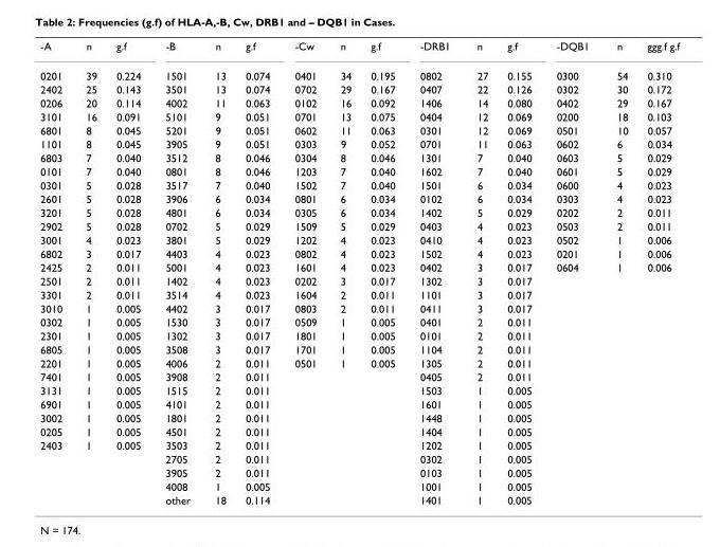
<table><tbody><tr><td>-A</td><td>n</td><td>g.f</td><td>-B</td><td>n</td><td>g.f</td><td>-Cw</td><td>n</td><td>g.f</td><td>-DRB1</td><td>n</td><td>g.f</td><td>-DQB1</td><td>n</td><td>ggg.f g.f</td></tr><tr><td>0201</td><td>39</td><td>0.224</td><td>1501</td><td>13</td><td>0.074</td><td>0401</td><td>34</td><td>0.195</td><td>0802</td><td>27</td><td>0.155</td><td>0300</td><td>54</td><td>0.310</td></tr><tr><td>2402</td><td>25</td><td>0.143</td><td>3501</td><td>13</td><td>0.074</td><td>0702</td><td>29</td><td>0.167</td><td>0407</td><td>22</td><td>0.126</td><td>0302</td><td>30</td><td>0.172</td></tr><tr><td>0206</td><td>20</td><td>0.114</td><td>4002</td><td>11</td><td>0.063</td><td>0102</td><td>16</td><td>0.092</td><td>1406</td><td>14</td><td>0.080</td><td>0402</td><td>29</td><td>0.167</td></tr><tr><td>3101</td><td>16</td><td>0.091</td><td>5101</td><td>9</td><td>0.051</td><td>0701</td><td>13</td><td>0.075</td><td>0404</td><td>12</td><td>0.069</td><td>0200</td><td>18</td><td>0.103</td></tr><tr><td>6801</td><td>8</td><td>0.045</td><td>5201</td><td>9</td><td>0.051</td><td>0602</td><td>11</td><td>0.063</td><td>0301</td><td>12</td><td>0.069</td><td>0501</td><td>10</td><td>0.057</td></tr><tr><td>1101</td><td>8</td><td>0.045</td><td>3905</td><td>9</td><td>0.051</td><td>0303</td><td>9</td><td>0.052</td><td>0701</td><td>11</td><td>0.063</td><td>0602</td><td>6</td><td>0.034</td></tr><tr><td>6803</td><td>7</td><td>0.040</td><td>3512</td><td>8</td><td>0.046</td><td>0304</td><td>8</td><td>0.046</td><td>1301</td><td>7</td><td>0.040</td><td>0603</td><td>5</td><td>0.029</td></tr><tr><td>0101</td><td>7</td><td>0.040</td><td>0801</td><td>8</td><td>0.046</td><td>1203</td><td>7</td><td>0.040</td><td>1602</td><td>7</td><td>0.040</td><td>0601</td><td>5</td><td>0.029</td></tr><tr><td>0301</td><td>5</td><td>0.028</td><td>3517</td><td>7</td><td>0.040</td><td>1502</td><td>7</td><td>0.040</td><td>1501</td><td>6</td><td>0.034</td><td>0600</td><td>4</td><td>0.023</td></tr><tr><td>2601</td><td>5</td><td>0.028</td><td>3906</td><td>6</td><td>0.034</td><td>0801</td><td>6</td><td>0.034</td><td>0102</td><td>6</td><td>0.034</td><td>0303</td><td>4</td><td>0.023</td></tr><tr><td>3201</td><td>5</td><td>0.028</td><td>4801</td><td>6</td><td>0.034</td><td>0305</td><td>6</td><td>0.034</td><td>1402</td><td>5</td><td>0.029</td><td>0202</td><td>2</td><td>0.011</td></tr><tr><td>2902</td><td>5</td><td>0.028</td><td>0702</td><td>5</td><td>0.029</td><td>1509</td><td>5</td><td>0.029</td><td>0403</td><td>4</td><td>0.023</td><td>0503</td><td>2</td><td>0.011</td></tr><tr><td>3001</td><td>4</td><td>0.023</td><td>3801</td><td>5</td><td>0.029</td><td>1202</td><td>4</td><td>0.023</td><td>0410</td><td>4</td><td>0.023</td><td>0502</td><td>1</td><td>0.006</td></tr><tr><td>6802</td><td>3</td><td>0.017</td><td>4403</td><td>4</td><td>0.023</td><td>0802</td><td>4</td><td>0.023</td><td>1502</td><td>4</td><td>0.023</td><td>0201</td><td>1</td><td>0.006</td></tr><tr><td>2425</td><td>2</td><td>0.011</td><td>5001</td><td>4</td><td>0.023</td><td>1601</td><td>4</td><td>0.023</td><td>0402</td><td>3</td><td>0.017</td><td>0604</td><td>1</td><td>0.006</td></tr><tr><td>2501</td><td>2</td><td>0.011</td><td>1402</td><td>4</td><td>0.023</td><td>0202</td><td>3</td><td>0.017</td><td>1302</td><td>3</td><td>0.017</td><td></td><td></td><td></td></tr><tr><td>3301</td><td>2</td><td>0.011</td><td>3514</td><td>4</td><td>0.023</td><td>1604</td><td>2</td><td>0.011</td><td>1101</td><td>3</td><td>0.017</td><td></td><td></td><td></td></tr><tr><td>3010</td><td>1</td><td>0.005</td><td>4402</td><td>3</td><td>0.017</td><td>0803</td><td>2</td><td>0.011</td><td>0411</td><td>3</td><td>0.017</td><td></td><td></td><td></td></tr><tr><td>0302</td><td>1</td><td>0.005</td><td>1530</td><td>3</td><td>0.017</td><td>0509</td><td>1</td><td>0.005</td><td>0401</td><td>2</td><td>0.011</td><td></td><td></td><td></td></tr><tr><td>2301</td><td>1</td><td>0.005</td><td>1302</td><td>3</td><td>0.017</td><td>1801</td><td>1</td><td>0.005</td><td>0101</td><td>2</td><td>0.011</td><td></td><td></td><td></td></tr><tr><td>6805</td><td>1</td><td>0.005</td><td>3508</td><td>3</td><td>0.017</td><td>1701</td><td>1</td><td>0.005</td><td>1104</td><td>2</td><td>0.011</td><td></td><td></td><td></td></tr><tr><td>2201</td><td>1</td><td>0.005</td><td>4006</td><td>2</td><td>0.011</td><td>0501</td><td>1</td><td>0.005</td><td>1305</td><td>2</td><td>0.011</td><td></td><td></td><td></td></tr><tr><td>7401</td><td>1</td><td>0.005</td><td>3908</td><td>2</td><td>0.011</td><td></td><td></td><td></td><td>0405</td><td>2</td><td>0.011</td><td></td><td></td><td></td></tr><tr><td>3131</td><td>1</td><td>0.005</td><td>1515</td><td>2</td><td>0.011</td><td></td><td></td><td></td><td>1503</td><td>1</td><td>0.005</td><td></td><td></td><td></td></tr><tr><td>6901</td><td>1</td><td>0.005</td><td>4101</td><td>2</td><td>0.011</td><td></td><td></td><td></td><td>1601</td><td>1</td><td>0.005</td><td></td><td></td><td></td></tr><tr><td>3002</td><td>1</td><td>0.005</td><td>1801</td><td>2</td><td>0.011</td><td></td><td></td><td></td><td>1448</td><td>1</td><td>0.005</td><td></td><td></td><td></td></tr><tr><td>0205</td><td>1</td><td>0.005</td><td>4501</td><td>2</td><td>0.011</td><td></td><td></td><td></td><td>1404</td><td>1</td><td>0.005</td><td></td><td></td><td></td></tr><tr><td rowspan="5">2403</td><td>1</td><td>0.005</td><td>3503</td><td>2</td><td>0.011</td><td></td><td></td><td></td><td>1202</td><td>1</td><td>0.005</td><td></td><td></td><td></td></tr><tr><td></td><td></td><td>2705</td><td>2</td><td>0.011</td><td></td><td></td><td></td><td>0302</td><td>1</td><td>0.005</td><td></td><td></td><td></td></tr><tr><td></td><td></td><td>3905</td><td>2</td><td>0.011</td><td></td><td></td><td></td><td>0103</td><td>1</td><td>0.005</td><td></td><td></td><td></td></tr><tr><td></td><td></td><td>4008</td><td>1</td><td>0.005</td><td></td><td></td><td></td><td>1001</td><td>1</td><td>0.005</td><td></td><td></td><td></td></tr><tr><td></td><td></td><td>other</td><td>18</td><td>0.114</td><td></td><td></td><td></td><td>1401</td><td>1</td><td>0.005</td><td></td><td></td><td></td></tr></tbody></table>